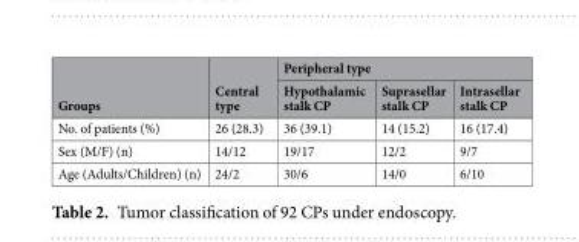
<table><thead><tr><td rowspan="2">Groups</td><td rowspan="2">Central type</td><td colspan="3">Peripheral type</td></tr><tr><td>Hypothalamic stalk CP</td><td>Suprasellar stalk CP</td><td>Intrasellar stalk CP</td></tr></thead><tbody><tr><td>No. of patients (%)</td><td>26 (28.3)</td><td>36 (39.1)</td><td>14 (15.2)</td><td>16 (17.4)</td></tr><tr><td>Sex (M/F) (n)</td><td>14/12</td><td>19/17</td><td>12/2</td><td>9/7</td></tr><tr><td>Age (Adults/Children) (n)</td><td>24/2</td><td>30/6</td><td>14/0</td><td>6/10</td></tr></tbody></table>